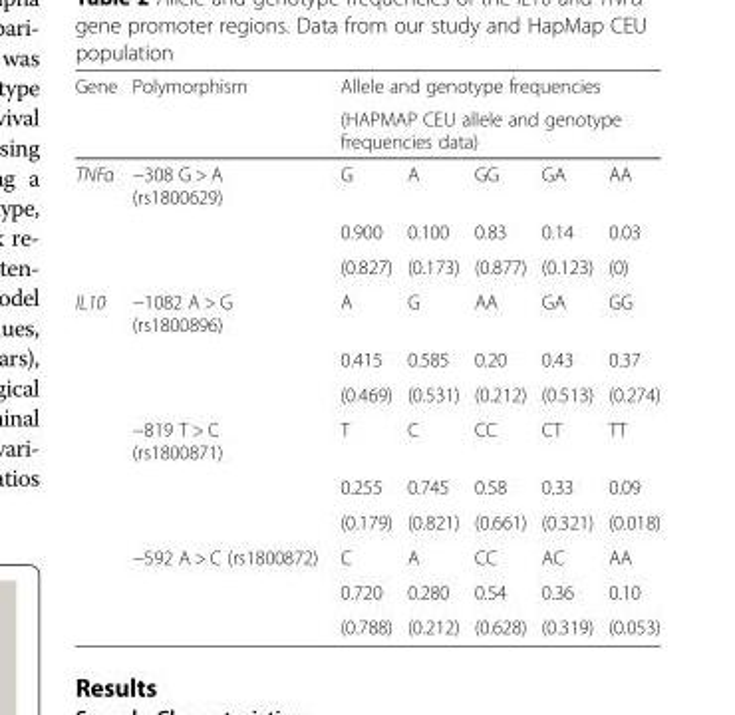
<table><thead><tr><td rowspan="3">Gene TNFα</td><td rowspan="3">Polymorphism −308 G &gt; A (rs1800629)</td><td rowspan="2" colspan="5">Allele and genotype frequencies (HAPMAP CEU allele and genotype frequencies data)</td></tr><tr></tr><tr><td>G</td><td>A</td><td>GG</td><td>GA</td><td>AA</td></tr></thead><tbody><tr><td></td><td></td><td>0.900</td><td>0.100</td><td>0.83</td><td>0.14</td><td>0.03</td></tr><tr><td></td><td></td><td>(0.827)</td><td>(0.173)</td><td>(0.877)</td><td>(0.123)</td><td>(0)</td></tr><tr><td rowspan="9">IL10</td><td>−1082 A &gt; G (rs1800896)</td><td>A</td><td>G</td><td>AA</td><td>GA</td><td>GG</td></tr><tr><td></td><td>0.415</td><td>0.585</td><td>0.20</td><td>0.43</td><td>0.37</td></tr><tr><td></td><td>(0.469)</td><td>(0.531)</td><td>(0.212)</td><td>(0.513)</td><td>(0.274)</td></tr><tr><td>−819 T &gt; C (rs1800871)</td><td>T</td><td>C</td><td>CC</td><td>CT</td><td>TT</td></tr><tr><td></td><td>0.255</td><td>0.745</td><td>0.58</td><td>0.33</td><td>0.09</td></tr><tr><td></td><td>(0.179)</td><td>(0.821)</td><td>(0.661)</td><td>(0.321)</td><td>(0.018)</td></tr><tr><td>−592 A &gt; C (rs1800872)</td><td>C</td><td>A</td><td>CC</td><td>AC</td><td>AA</td></tr><tr><td></td><td>0.720</td><td>0.280</td><td>0.54</td><td>0.36</td><td>0.10</td></tr><tr><td></td><td>(0.788)</td><td>(0.212)</td><td>(0.628)</td><td>(0.319)</td><td>(0.053)</td></tr></tbody></table>